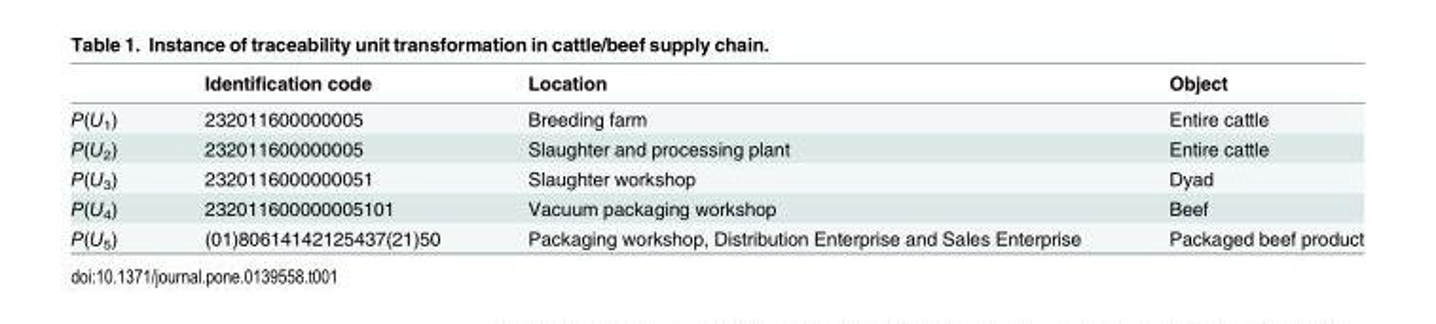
<table><thead><tr><td></td><td>Identification code</td><td>Location</td><td>Object</td></tr></thead><tbody><tr><td>P(U<sub>1</sub>)</td><td>232011600000005</td><td>Breeding farm</td><td>Entire cattle</td></tr><tr><td>P(U<sub>2</sub>)</td><td>232011600000005</td><td>Slaughter and processing plant</td><td>Entire cattle</td></tr><tr><td>P(U<sub>3</sub>)</td><td>2320116000000051</td><td>Slaughter workshop</td><td>Dyad</td></tr><tr><td>P(U<sub>4</sub>)</td><td>232011600000005101</td><td>Vacuum packaging workshop</td><td>Beef</td></tr><tr><td>P(U<sub>5</sub>)</td><td>(01)80614142125437(21)50</td><td>Packaging workshop, Distribution Enterprise and Sales Enterprise</td><td>Packaged beef product</td></tr></tbody></table>